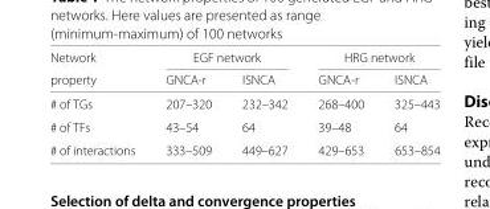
<table><thead><tr><td rowspan="2">Network property</td><td colspan="2">EGF network</td><td colspan="2">HRG network</td></tr><tr><td>GNCA-r</td><td>ISNCA</td><td>GNCA-r</td><td>ISNCA</td></tr></thead><tbody><tr><td># of TGs</td><td>207–320</td><td>232–342</td><td>268–400</td><td>325–443</td></tr><tr><td># of TFs</td><td>43–54</td><td>64</td><td>39–48</td><td>64</td></tr><tr><td># of interactions</td><td>333–509</td><td>449–627</td><td>429–653</td><td>653–854</td></tr></tbody></table>